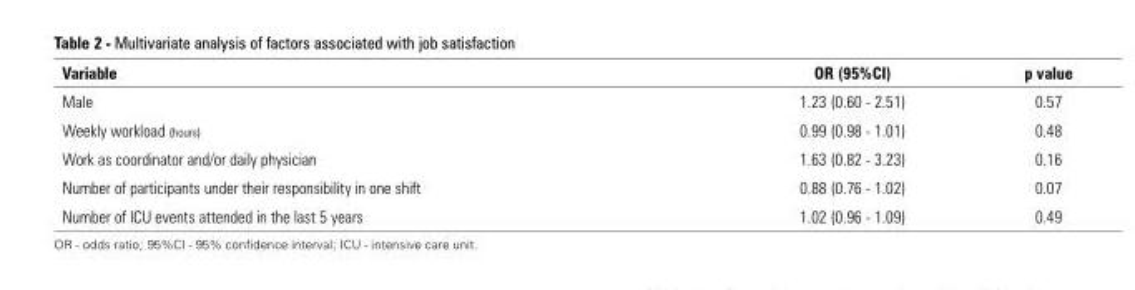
<table><thead><tr><td>Variable</td><td>OR (95%CI)</td><td>p value</td></tr></thead><tbody><tr><td>Male</td><td>1.23 (0.60 - 2.51)</td><td>0.57</td></tr><tr><td>Weekly workload (hours)</td><td>0.99 (0.98 - 1.01)</td><td>0.48</td></tr><tr><td>Work as coordinator and/or daily physician</td><td>1.63 (0.82 - 3.23)</td><td>0.16</td></tr><tr><td>Number of participants under their responsibility in one shift</td><td>0.88 (0.76 - 1.02)</td><td>0.07</td></tr><tr><td>Number of ICU events attended in the last 5 years</td><td>1.02 (0.96 - 1.09)</td><td>0.49</td></tr></tbody></table>